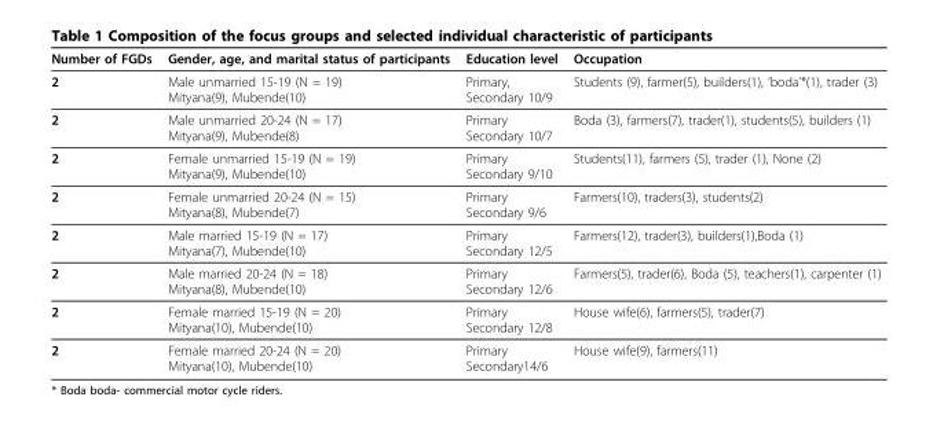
<table><thead><tr><td>Number of FGDs</td><td>Gender, age, and marital status of participants</td><td>Education level</td><td>Occupation</td></tr></thead><tbody><tr><td>2</td><td>Male unmarried 15-19 (N = 19) Mityana(9), Mubende(10)</td><td>Primary, Secondary 10/9</td><td>Students (9), farmer(5), builders(1), ‘boda’*(1), trader (3)</td></tr><tr><td>2</td><td>Male unmarried 20-24 (N = 17) Mityana(9), Mubende(8)</td><td>Primary Secondary 10/7</td><td>Boda (3), farmers(7), trader(1), students(5), builders (1)</td></tr><tr><td>2</td><td>Female unmarried 15-19 (N = 19) Mityana(9), Mubende(10)</td><td>Primary Secondary 9/10</td><td>Students(11), farmers (5), trader (1), None (2)</td></tr><tr><td>2</td><td>Female unmarried 20-24 (N = 15) Mityana(8), Mubende(7)</td><td>Primary Secondary 9/6</td><td>Farmers(10), traders(3), students(2)</td></tr><tr><td>2</td><td>Male married 15-19 (N = 17) Mityana(7), Mubende(10)</td><td>Primary Secondary 12/5</td><td>Farmers(12), trader(3), builders(1),Boda (1)</td></tr><tr><td>2</td><td>Male married 20-24 (N = 18) Mityana(8), Mubende(10)</td><td>Primary Secondary 12/6</td><td>Farmers(5), trader(6), Boda (5), teachers(1), carpenter (1)</td></tr><tr><td>2</td><td>Female married 15-19 (N = 20) Mityana(10), Mubende(10)</td><td>Primary Secondary 12/8</td><td>House wife(6), farmers(5), trader(7)</td></tr><tr><td>2</td><td>Female married 20-24 (N = 20) Mityana(10), Mubende(10)</td><td>Primary Secondary14/6</td><td>House wife(9), farmers(11)</td></tr></tbody></table>